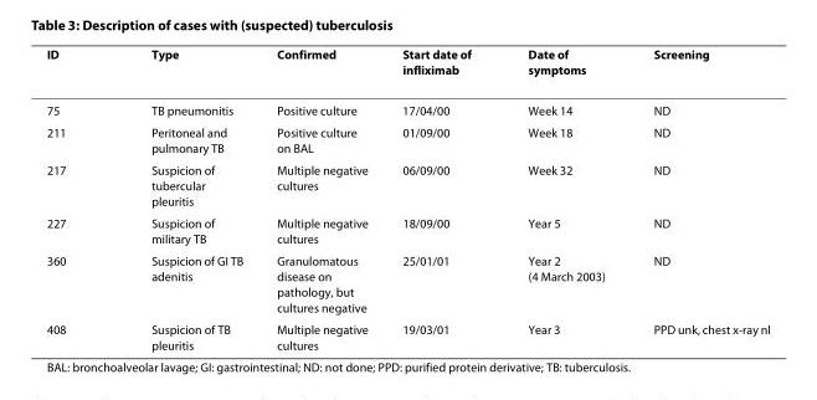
<table><thead><tr><td>ID</td><td>Type</td><td>Confirmed</td><td>Start date of infliximab</td><td>Date of symptoms</td><td>Screening</td></tr></thead><tbody><tr><td>75</td><td>TB pneumonitis</td><td>Positive culture</td><td>17/04/00</td><td>Week 14</td><td>ND</td></tr><tr><td>211</td><td>Peritoneal and pulmonary TB</td><td>Positive culture on BAL</td><td>01/09/00</td><td>Week 18</td><td>ND</td></tr><tr><td>217</td><td>Suspicion of tubercular pleuritis</td><td>Multiple negative cultures</td><td>06/09/00</td><td>Week 32</td><td>ND</td></tr><tr><td>227</td><td>Suspicion of military TB</td><td>Multiple negative cultures</td><td>18/09/00</td><td>Year 5</td><td>ND</td></tr><tr><td>360</td><td>Suspicion of GI TB adenitis</td><td>Granulomatous disease on pathology, but cultures negative</td><td>25/01/01</td><td>Year 2 (4 March 2003)</td><td>ND</td></tr><tr><td>408</td><td>Suspicion of TB pleuritis</td><td>Multiple negative cultures</td><td>19/03/01</td><td>Year 3</td><td>PPD unk, chest x-ray nl</td></tr></tbody></table>